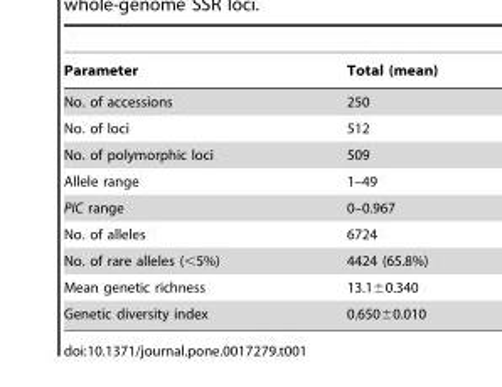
<table><thead><tr><td>Parameter</td><td>Total (mean)</td></tr></thead><tbody><tr><td>No. of accessions</td><td>250</td></tr><tr><td>No. of loci</td><td>512</td></tr><tr><td>No. of polymorphic loci</td><td>509</td></tr><tr><td>Allele range</td><td>1–49</td></tr><tr><td>PIC range</td><td>0–0.967</td></tr><tr><td>No. of alleles</td><td>6724</td></tr><tr><td>No. of rare alleles (&lt;5%)</td><td>4424 (65.8%)</td></tr><tr><td>Mean genetic richness</td><td>13.1±0.340</td></tr><tr><td>Genetic diversity index</td><td>0.650±0.010</td></tr></tbody></table>